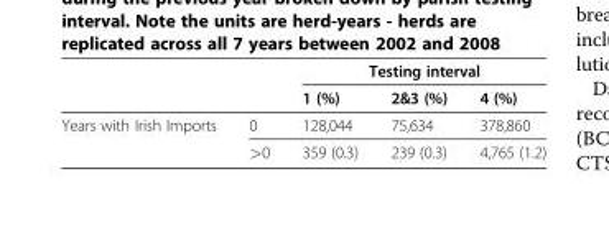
<table><thead><tr><td rowspan="2"></td><td rowspan="2"></td><td colspan="3">Testing interval</td></tr><tr><td>1 (%)</td><td>2&amp;3 (%)</td><td>4 (%)</td></tr></thead><tbody><tr><td rowspan="2">Years with Irish Imports</td><td>0</td><td>128,044</td><td>75,634</td><td>378,860</td></tr><tr><td>&gt;0</td><td>359 (0.3)</td><td>239 (0.3)</td><td>4,765 (1.2)</td></tr></tbody></table>